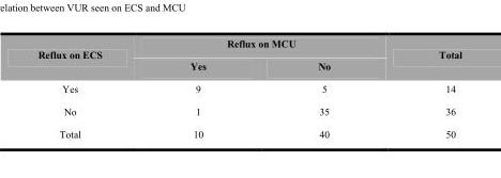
<table><thead><tr><td rowspan="2">Reflux on ECS</td><td colspan="2">Reflux on MCU</td><td rowspan="2">Total</td></tr><tr><td>Yes</td><td>No</td></tr></thead><tbody><tr><td>Yes</td><td>9</td><td>5</td><td>14</td></tr><tr><td>No</td><td>1</td><td>35</td><td>36</td></tr><tr><td>Total</td><td>10</td><td>40</td><td>50</td></tr></tbody></table>